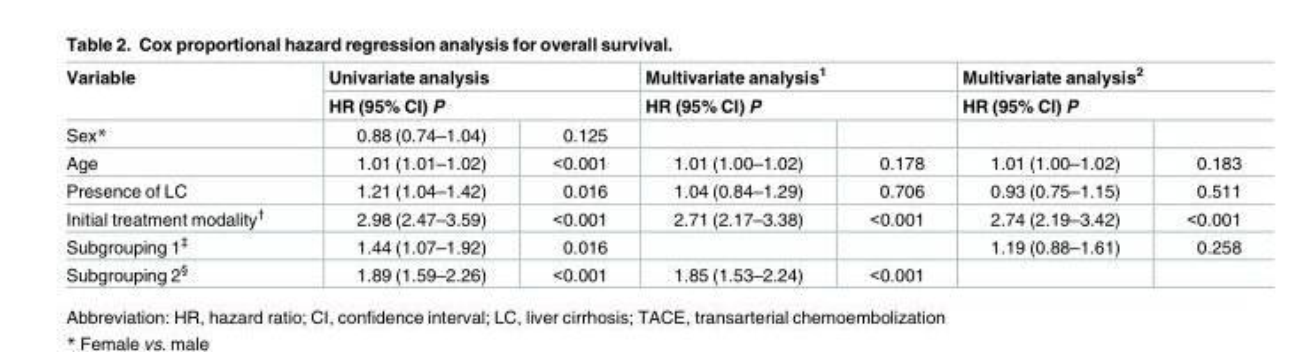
<table><thead><tr><td rowspan="3">Variable Sex*</td><td rowspan="2" colspan="2">Univariate analysis HR (95% CI) P</td><td rowspan="2" colspan="2">Multivariate analysis<sup>1</sup> HR (95% CI) P</td><td rowspan="2" colspan="2">Multivariate analysis<sup>2</sup> HR (95% CI) P</td></tr><tr></tr><tr><td>0.88 (0.74–1.04)</td><td>0.125</td><td></td><td></td><td></td><td></td></tr></thead><tbody><tr><td>Age</td><td>1.01 (1.01–1.02)</td><td>&lt;0.001</td><td>1.01 (1.00–1.02)</td><td>0.178</td><td>1.01 (1.00–1.02)</td><td>0.183</td></tr><tr><td>Presence of LC</td><td>1.21 (1.04–1.42)</td><td>0.016</td><td>1.04 (0.84–1.29)</td><td>0.706</td><td>0.93 (0.75–1.15)</td><td>0.511</td></tr><tr><td>Initial treatment modality<sup>†</sup></td><td>2.98 (2.47–3.59)</td><td>&lt;0.001</td><td>2.71 (2.17–3.38)</td><td>&lt;0.001</td><td>2.74 (2.19–3.42)</td><td>&lt;0.001</td></tr><tr><td>Subgrouping 1<sup>‡</sup></td><td>1.44 (1.07–1.92)</td><td>0.016</td><td></td><td></td><td>1.19 (0.88–1.61)</td><td>0.258</td></tr><tr><td>Subgrouping 2<sup>§</sup></td><td>1.89 (1.59–2.26)</td><td>&lt;0.001</td><td>1.85 (1.53–2.24)</td><td>&lt;0.001</td><td></td><td></td></tr></tbody></table>